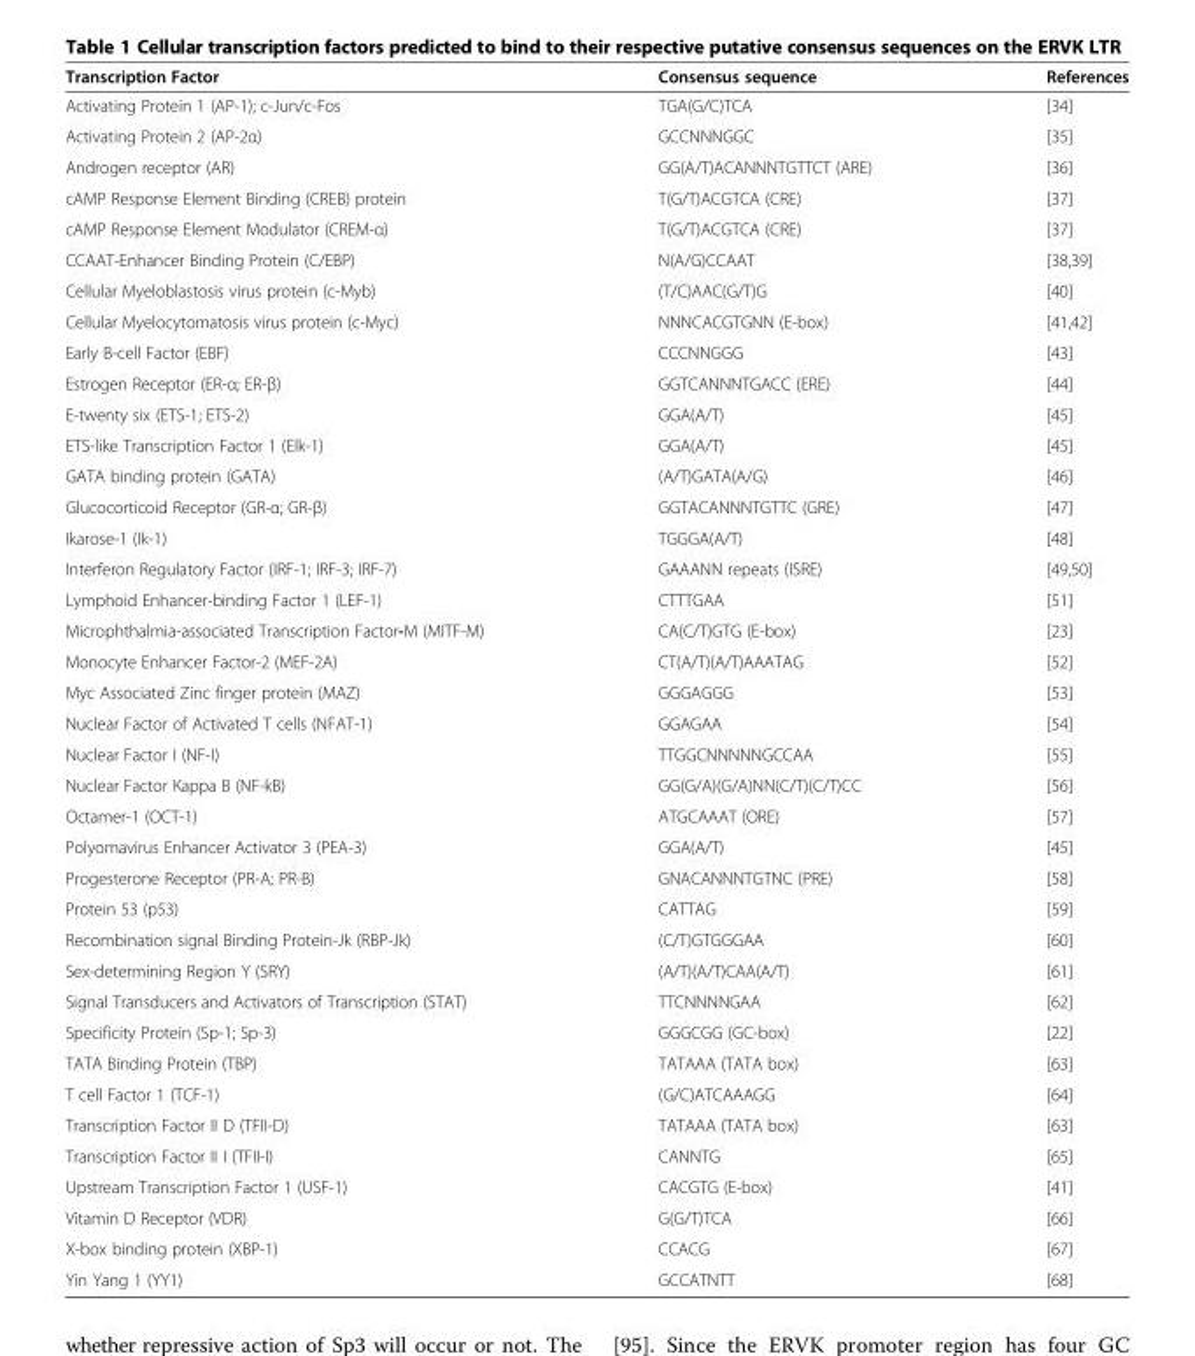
<table><thead><tr><td>Transcription Factor</td><td>Consensus sequence</td><td>References</td></tr></thead><tbody><tr><td>Activating Protein 1 (AP-1); c-Jun/c-Fos</td><td>TGA(G/C)TCA</td><td>[34]</td></tr><tr><td>Activating Protein 2 (AP-2α)</td><td>GCCNNNGGC</td><td>[35]</td></tr><tr><td>Androgen receptor (AR)</td><td>GG(A/T)ACANNNTGTTCT (ARE)</td><td>[36]</td></tr><tr><td>cAMP Response Element Binding (CREB) protein</td><td>T(G/T)ACGTCA (CRE)</td><td>[37]</td></tr><tr><td>cAMP Response Element Modulator (CREM-α)</td><td>T(G/T)ACGTCA (CRE)</td><td>[37]</td></tr><tr><td>CCAAT-Enhancer Binding Protein (C/EBP)</td><td>N(A/G)CCAAT</td><td>[38,39]</td></tr><tr><td>Cellular Myeloblastosis virus protein (c-Myb)</td><td>(T/C)AAC(G/T)G</td><td>[40]</td></tr><tr><td>Cellular Myelocytomatosis virus protein (c-Myc)</td><td>NNNCACGTGNN (E-box)</td><td>[41,42]</td></tr><tr><td>Early B-cell Factor (EBF)</td><td>CCCNNGGG</td><td>[43]</td></tr><tr><td>Estrogen Receptor (ER-α; ER-β)</td><td>GGTCANNNTGACC (ERE)</td><td>[44]</td></tr><tr><td>E-twenty six (ETS-1; ETS-2)</td><td>GGA(A/T)</td><td>[45]</td></tr><tr><td>ETS-like Transcription Factor 1 (Elk-1)</td><td>GGA(A/T)</td><td>[45]</td></tr><tr><td>GATA binding protein (GATA)</td><td>(A/T)GATA(A/G)</td><td>[46]</td></tr><tr><td>Glucocorticoid Receptor (GR-α; GR-β)</td><td>GGTACANNNTGTTC (GRE)</td><td>[47]</td></tr><tr><td>Ikarose-1 (Ik-1)</td><td>TGGGA(A/T)</td><td>[48]</td></tr><tr><td>Interferon Regulatory Factor (IRF-1; IRF-3; IRF-7)</td><td>GAAANN repeats (ISRE)</td><td>[49,50]</td></tr><tr><td>Lymphoid Enhancer-binding Factor 1 (LEF-1)</td><td>CTTTGAA</td><td>[51]</td></tr><tr><td>Microphthalmia-associated Transcription Factor-M (MITF-M)</td><td>CA(C/T)GTG (E-box)</td><td>[23]</td></tr><tr><td>Monocyte Enhancer Factor-2 (MEF-2A)</td><td>CT(A/T)(A/T)AAATAG</td><td>[52]</td></tr><tr><td>Myc Associated Zinc finger protein (MAZ)</td><td>GGGAGGG</td><td>[53]</td></tr><tr><td>Nuclear Factor of Activated T cells (NFAT-1)</td><td>GGAGAA</td><td>[54]</td></tr><tr><td>Nuclear Factor I (NF-I)</td><td>TTGGCNNNNNGCCAA</td><td>[55]</td></tr><tr><td>Nuclear Factor Kappa B (NF-kB)</td><td>GG(G/A)(G/A)NN(C/T)(C/T)CC</td><td>[56]</td></tr><tr><td>Octamer-1 (OCT-1)</td><td>ATGCAAAT (ORE)</td><td>[57]</td></tr><tr><td>Polyomavirus Enhancer Activator 3 (PEA-3)</td><td>GGA(A/T)</td><td>[45]</td></tr><tr><td>Progesterone Receptor (PR-A; PR-B)</td><td>GNACANNNTGTNC (PRE)</td><td>[58]</td></tr><tr><td>Protein 53 (p53)</td><td>CATTAG</td><td>[59]</td></tr><tr><td>Recombination signal Binding Protein-Jk (RBP-Jk)</td><td>(C/T)GTGGGAA</td><td>[60]</td></tr><tr><td>Sex-determining Region Y (SRY)</td><td>(A/T)(A/T)CAA(A/T)</td><td>[61]</td></tr><tr><td>Signal Transducers and Activators of Transcription (STAT)</td><td>TTCNNNNGAA</td><td>[62]</td></tr><tr><td>Specificity Protein (Sp-1; Sp-3)</td><td>GGGCGG (GC-box)</td><td>[22]</td></tr><tr><td>TATA Binding Protein (TBP)</td><td>TATAAA (TATA box)</td><td>[63]</td></tr><tr><td>T cell Factor 1 (TCF-1)</td><td>(G/C)ATCAAAGG</td><td>[64]</td></tr><tr><td>Transcription Factor II D (TFII-D)</td><td>TATAAA (TATA box)</td><td>[63]</td></tr><tr><td>Transcription Factor II I (TFII-I)</td><td>CANNTG</td><td>[65]</td></tr><tr><td>Upstream Transcription Factor 1 (USF-1)</td><td>CACGTG (E-box)</td><td>[41]</td></tr><tr><td>Vitamin D Receptor (VDR)</td><td>G(G/T)TCA</td><td>[66]</td></tr><tr><td>X-box binding protein (XBP-1)</td><td>CCACG</td><td>[67]</td></tr><tr><td>Yin Yang 1 (YY1)</td><td>GCCATNTT</td><td>[68]</td></tr></tbody></table>